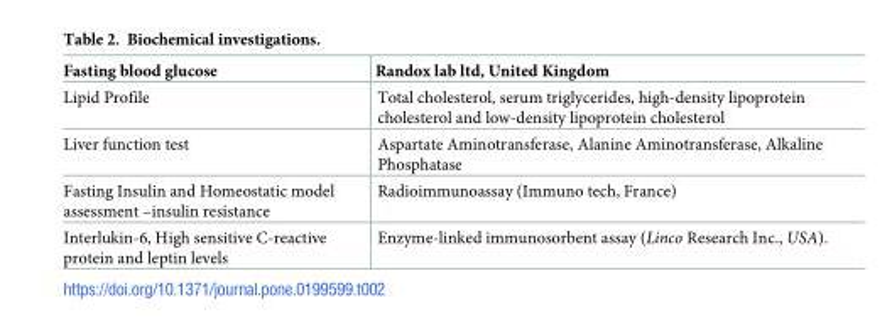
<table><thead><tr><td>Fasting blood glucose</td><td>Randox lab ltd, United Kingdom</td></tr></thead><tbody><tr><td>Lipid Profile</td><td>Total cholesterol, serum triglycerides, high-density lipoprotein cholesterol and low-density lipoprotein cholesterol</td></tr><tr><td>Liver function test</td><td>Aspartate Aminotransferase, Alanine Aminotransferase, Alkaline Phosphatase</td></tr><tr><td>Fasting Insulin and Homeostatic model assessment –insulin resistance</td><td>Radioimmunoassay (Immuno tech, France)</td></tr><tr><td>Interlukin-6, High sensitive C-reactive protein and leptin levels</td><td>Enzyme-linked immunosorbent assay (Linco Research Inc., USA).</td></tr></tbody></table>